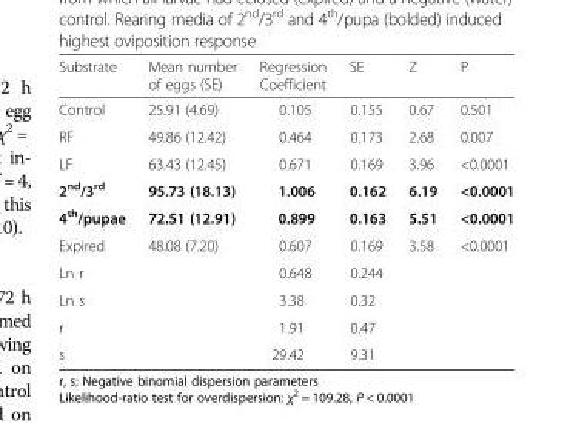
<table><thead><tr><td>Substrate</td><td>Mean number of eggs (SE)</td><td>Regression Coefficient</td><td>SE</td><td>Z</td><td>P</td></tr></thead><tbody><tr><td>Control</td><td>25.91 (4.69)</td><td>0.105</td><td>0.155</td><td>0.67</td><td>0.501</td></tr><tr><td>RF</td><td>49.86 (12.42)</td><td>0.464</td><td>0.173</td><td>2.68</td><td>0.007</td></tr><tr><td>LF</td><td>63.43 (12.45)</td><td>0.671</td><td>0.169</td><td>3.96</td><td>&lt;0.0001</td></tr><tr><td>2<sup>nd</sup>/3<sup>rd</sup></td><td>95.73 (18.13)</td><td>1.006</td><td>0.162</td><td>6.19</td><td>&lt;0.0001</td></tr><tr><td>4<sup>th</sup>/pupae</td><td>72.51 (12.91)</td><td>0.899</td><td>0.163</td><td>5.51</td><td>&lt;0.0001</td></tr><tr><td>Expired</td><td>48.08 (7.20)</td><td>0.607</td><td>0.169</td><td>3.58</td><td>&lt;0.0001</td></tr><tr><td>Ln r</td><td></td><td>0.648</td><td>0.244</td><td></td><td></td></tr><tr><td>Ln s</td><td></td><td>3.38</td><td>0.32</td><td></td><td></td></tr><tr><td>r</td><td></td><td>1.91</td><td>0.47</td><td></td><td></td></tr><tr><td>s</td><td></td><td>29.42</td><td>9.31</td><td></td><td></td></tr></tbody></table>